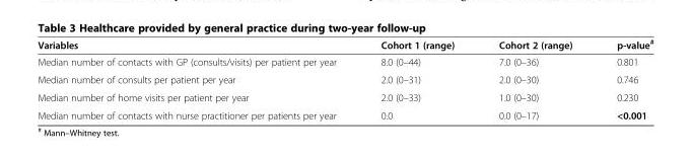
<table><thead><tr><td>Variables</td><td>Cohort 1 (range)</td><td>Cohort 2 (range)</td><td>p-value<sup>#</sup></td></tr></thead><tbody><tr><td>Median number of contacts with GP (consults/visits) per patient per year</td><td>8.0 (0–44)</td><td>7.0 (0–36)</td><td>0.801</td></tr><tr><td>Median number of consults per patient per year</td><td>2.0 (0–31)</td><td>2.0 (0–30)</td><td>0.746</td></tr><tr><td>Median number of home visits per patient per year</td><td>2.0 (0–33)</td><td>1.0 (0–30)</td><td>0.230</td></tr><tr><td>Median number of contacts with nurse practitioner per patients per year</td><td>0.0</td><td>0.0 (0–17)</td><td>&lt;0.001</td></tr></tbody></table>